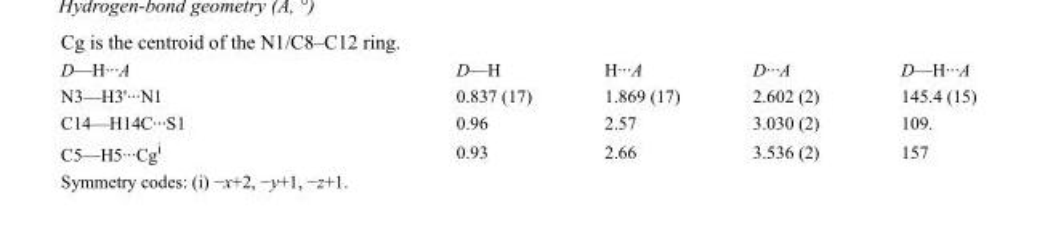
<table><tbody><tr><td>D—H···A</td><td>D—H</td><td>H···A</td><td>D···A</td><td>D—H···A</td></tr><tr><td>N3—H3&#x27;···N1</td><td>0.837 (17)</td><td>1.869 (17)</td><td>2.602 (2)</td><td>145.4 (15)</td></tr><tr><td>C14—H14C···S1</td><td>0.96</td><td>2.57</td><td>3.030 (2)</td><td>109.</td></tr><tr><td>C5—H5···Cg<sup>i</sup></td><td>0.93</td><td>2.66</td><td>3.536 (2)</td><td>157</td></tr></tbody></table>